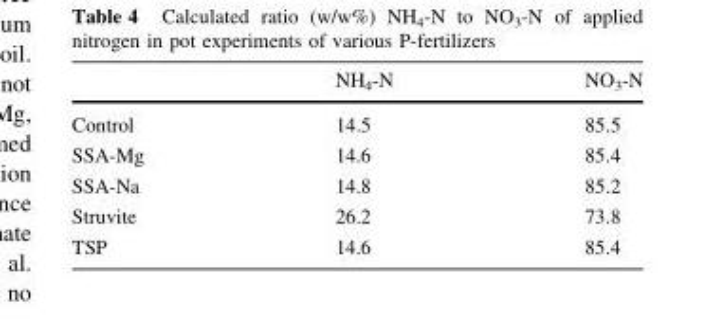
<table><thead><tr><td></td><td>NH<sub>4</sub>-N</td><td>NO<sub>3</sub>-N</td></tr></thead><tbody><tr><td>Control</td><td>14.5</td><td>85.5</td></tr><tr><td>SSA-Mg</td><td>14.6</td><td>85.4</td></tr><tr><td>SSA-Na</td><td>14.8</td><td>85.2</td></tr><tr><td>Struvite</td><td>26.2</td><td>73.8</td></tr><tr><td>TSP</td><td>14.6</td><td>85.4</td></tr></tbody></table>